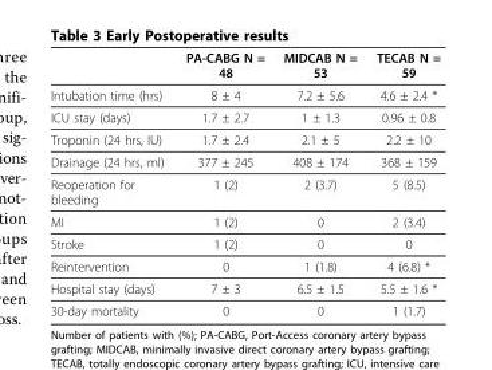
<table><thead><tr><td></td><td>PA-CABG N = 48</td><td>MIDCAB N = 53</td><td>TECAB N = 59</td></tr></thead><tbody><tr><td>Intubation time (hrs)</td><td>8 ± 4</td><td>7.2 ± 5.6</td><td>4.6 ± 2.4 *</td></tr><tr><td>ICU stay (days)</td><td>1.7 ± 2.7</td><td>1 ± 1.3</td><td>0.96 ± 0.8</td></tr><tr><td>Troponin (24 hrs, IU)</td><td>1.7 ± 2.4</td><td>2.1 ± 5</td><td>2.2 ± 10</td></tr><tr><td>Drainage (24 hrs, ml)</td><td>377 ± 245</td><td>408 ± 174</td><td>368 ± 159</td></tr><tr><td>Reoperation for bleeding</td><td>1 (2)</td><td>2 (3.7)</td><td>5 (8.5)</td></tr><tr><td>MI</td><td>1 (2)</td><td>0</td><td>2 (3.4)</td></tr><tr><td>Stroke</td><td>1 (2)</td><td>0</td><td>0</td></tr><tr><td>Reintervention</td><td>0</td><td>1 (1.8)</td><td>4 (6.8) *</td></tr><tr><td>Hospital stay (days)</td><td>7 ± 3</td><td>6.5 ± 1.5</td><td>5.5 ± 1.6 *</td></tr><tr><td>30-day mortality</td><td>0</td><td>0</td><td>1 (1.7)</td></tr></tbody></table>